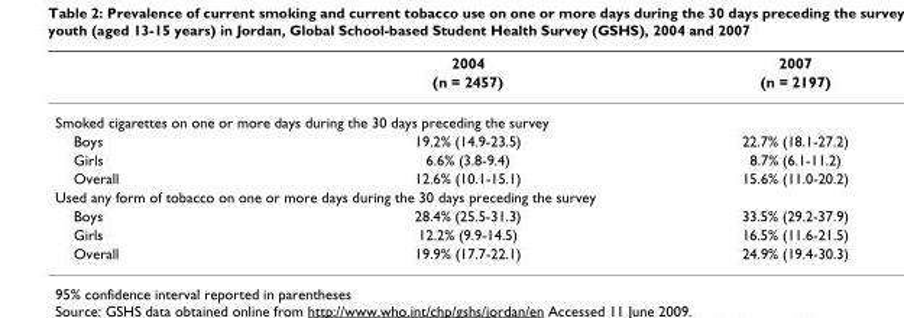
<table><thead><tr><td rowspan="2"></td><td rowspan="2">2004 (n = 2457)</td><td rowspan="2">2007 (n = 2197)</td></tr><tr></tr></thead><tbody><tr><td colspan="3">Smoked cigarettes on one or more days during the 30 days preceding the survey</td></tr><tr><td>Boys</td><td>19.2% (14.9-23.5)</td><td>22.7% (18.1-27.2)</td></tr><tr><td>Girls</td><td>6.6% (3.8-9.4)</td><td>8.7% (6.1-11.2)</td></tr><tr><td>Overall</td><td>12.6% (10.1-15.1)</td><td>15.6% (11.0-20.2)</td></tr><tr><td colspan="3">Used any form of tobacco on one or more days during the 30 days preceding the survey</td></tr><tr><td>Boys</td><td>28.4% (25.5-31.3)</td><td>33.5% (29.2-37.9)</td></tr><tr><td>Girls</td><td>12.2% (9.9-14.5)</td><td>16.5% (11.6-21.5)</td></tr><tr><td>Overall</td><td>19.9% (17.7-22.1)</td><td>24.9% (19.4-30.3)</td></tr></tbody></table>